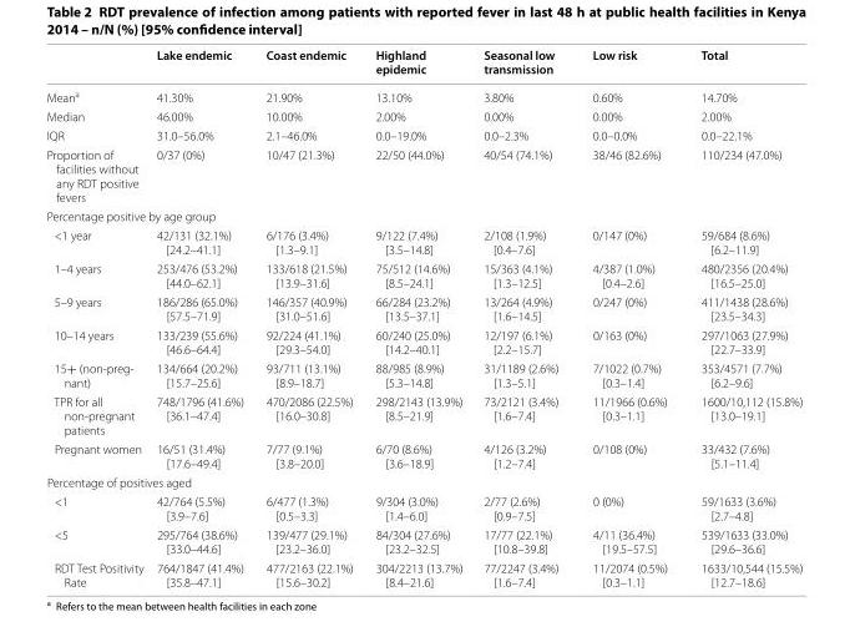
<table><thead><tr><td></td><td>Lake endemic</td><td>Coast endemic</td><td>Highland epidemic</td><td>Seasonal low transmission</td><td>Low risk</td><td>Total</td></tr></thead><tbody><tr><td>Mean<sup>a</sup></td><td>41.30%</td><td>21.90%</td><td>13.10%</td><td>3.80%</td><td>0.60%</td><td>14.70%</td></tr><tr><td>Median</td><td>46.00%</td><td>10.00%</td><td>2.00%</td><td>0.00%</td><td>0.00%</td><td>2.00%</td></tr><tr><td>IQR</td><td>31.0–56.0%</td><td>2.1–46.0%</td><td>0.0–19.0%</td><td>0.0–2.3%</td><td>0.0–0.0%</td><td>0.0–22.1%</td></tr><tr><td>Proportion of facilities without any RDT positive fevers</td><td>0/37 (0%)</td><td>10/47 (21.3%)</td><td>22/50 (44.0%)</td><td>40/54 (74.1%)</td><td>38/46 (82.6%)</td><td>110/234 (47.0%)</td></tr><tr><td colspan="7">Percentage positive by age group</td></tr><tr><td>&lt;1 year</td><td>42/131 (32.1%) [24.2–41.1]</td><td>6/176 (3.4%) [1.3–9.1]</td><td>9/122 (7.4%) [3.5–14.8]</td><td>2/108 (1.9%) [0.4–7.6]</td><td>0/147 (0%)</td><td>59/684 (8.6%) [6.2–11.9]</td></tr><tr><td>1–4 years</td><td>253/476 (53.2%) [44.0–62.1]</td><td>133/618 (21.5%) [13.9–31.6]</td><td>75/512 (14.6%) [8.5–24.1]</td><td>15/363 (4.1%) [1.3–12.5]</td><td>4/387 (1.0%) [0.4–2.6]</td><td>480/2356 (20.4%) [16.5–25.0]</td></tr><tr><td>5–9 years</td><td>186/286 (65.0%) [57.5–71.9]</td><td>146/357 (40.9%) [31.0–51.6]</td><td>66/284 (23.2%) [13.5–37.1]</td><td>13/264 (4.9%) [1.6–14.5]</td><td>0/247 (0%)</td><td>411/1438 (28.6%) [23.5–34.3]</td></tr><tr><td>10–14 years</td><td>133/239 (55.6%) [46.6–64.4]</td><td>92/224 (41.1%) [29.3–54.0]</td><td>60/240 (25.0%) [14.2–40.1]</td><td>12/197 (6.1%) [2.2–15.7]</td><td>0/163 (0%)</td><td>297/1063 (27.9%) [22.7–33.9]</td></tr><tr><td>15+ (non-preg- nant)</td><td>134/664 (20.2%) [15.7–25.6]</td><td>93/711 (13.1%) [8.9–18.7]</td><td>88/985 (8.9%) [5.3–14.8]</td><td>31/1189 (2.6%) [1.3–5.1]</td><td>7/1022 (0.7%) [0.3–1.4]</td><td>353/4571 (7.7%) [6.2–9.6]</td></tr><tr><td>TPR for all non-pregnant patients</td><td>748/1796 (41.6%) [36.1–47.4]</td><td>470/2086 (22.5%) [16.0–30.8]</td><td>298/2143 (13.9%) [8.5–21.9]</td><td>73/2121 (3.4%) [1.6–7.4]</td><td>11/1966 (0.6%) [0.3–1.1]</td><td>1600/10,112 (15.8%) [13.0–19.1]</td></tr><tr><td>Pregnant women</td><td>16/51 (31.4%) [17.6–49.4]</td><td>7/77 (9.1%) [3.8–20.0]</td><td>6/70 (8.6%) [3.6–18.9]</td><td>4/126 (3.2%) [1.2–7.4]</td><td>0/108 (0%)</td><td>33/432 (7.6%) [5.1–11.4]</td></tr><tr><td colspan="7">Percentage of positives aged</td></tr><tr><td>&lt;1</td><td>42/764 (5.5%) [3.9–7.6]</td><td>6/477 (1.3%) [0.5–3.3]</td><td>9/304 (3.0%) [1.4–6.0]</td><td>2/77 (2.6%) [0.9–7.5]</td><td>0 (0%)</td><td>59/1633 (3.6%) [2.7–4.8]</td></tr><tr><td>&lt;5</td><td>295/764 (38.6%) [33.0–44.6]</td><td>139/477 (29.1%) [23.2–36.0]</td><td>84/304 (27.6%) [23.2–32.5]</td><td>17/77 (22.1%) [10.8–39.8]</td><td>4/11 (36.4%) [19.5–57.5]</td><td>539/1633 (33.0%) [29.6–36.6]</td></tr><tr><td>RDT Test Positivity Rate</td><td>764/1847 (41.4%) [35.8–47.1]</td><td>477/2163 (22.1%) [15.6–30.2]</td><td>304/2213 (13.7%) [8.4–21.6]</td><td>77/2247 (3.4%) [1.6–7.4]</td><td>11/2074 (0.5%) [0.3–1.1]</td><td>1633/10,544 (15.5%) [12.7–18.6]</td></tr></tbody></table>